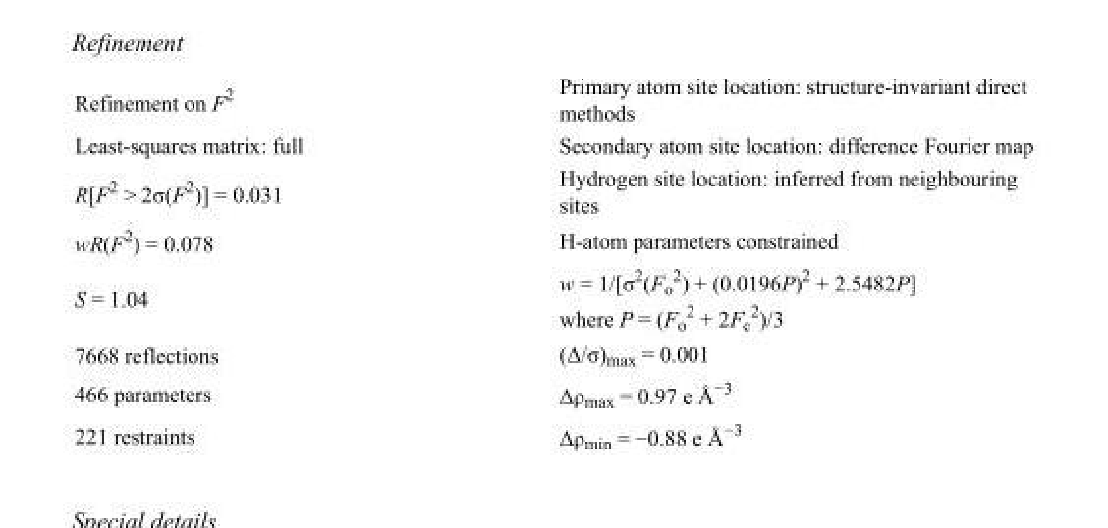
<table><tbody><tr><td>Refinement on F<sup>2</sup></td><td>Primary atom site location: structure-invariant direct methods</td></tr><tr><td>Least-squares matrix: full</td><td>Secondary atom site location: difference Fourier map</td></tr><tr><td>R[F<sup>2</sup> &gt; 2σ(F<sup>2</sup>)] = 0.031</td><td>Hydrogen site location: inferred from neighbouring sites</td></tr><tr><td>wR(F<sup>2</sup>) = 0.078</td><td>H-atom parameters constrained</td></tr><tr><td>S = 1.04</td><td>w = 1/[σ<sup>2</sup>(F<sub>o</sub> <sup>2</sup>) + (0.0196P)<sup>2</sup> + 2.5482P] where P = (F<sub>o</sub> <sup>2</sup> + 2F<sub>c</sub> <sup>2</sup>)/3</td></tr><tr><td>7668 reflections</td><td>(Δ/σ)<sub>max</sub> = 0.001</td></tr><tr><td>466 parameters</td><td>Δρ<sub>max</sub> = 0.97 e Å<sup>−3</sup></td></tr><tr><td>221 restraints</td><td>Δρ<sub>min</sub> = −0.88 e Å<sup>−3</sup></td></tr></tbody></table>